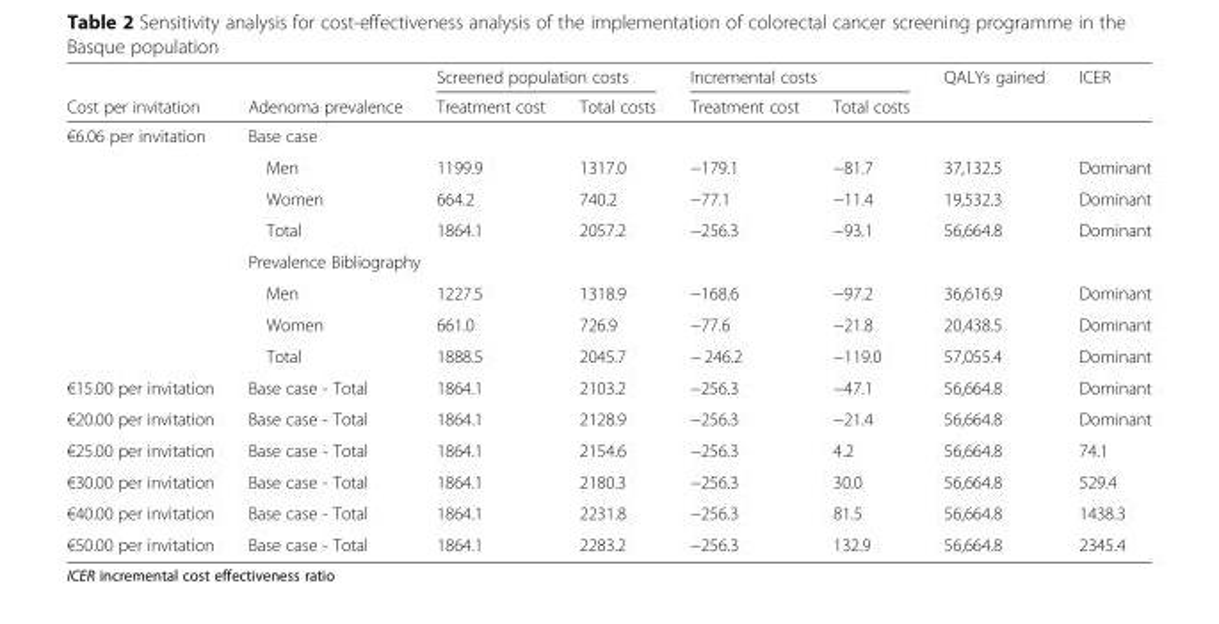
<table><thead><tr><td rowspan="2">Cost per invitation</td><td rowspan="2">Adenoma prevalence</td><td colspan="2">Screened population costs</td><td colspan="2">Incremental costs</td><td rowspan="2">QALYs gained</td><td rowspan="2">ICER</td></tr><tr><td>Treatment cost</td><td>Total costs</td><td>Treatment cost</td><td>Total costs</td></tr></thead><tbody><tr><td rowspan="8">€6.06 per invitation</td><td colspan="7">Base case</td></tr><tr><td>Men</td><td>1199.9</td><td>1317.0</td><td>−179.1</td><td>−81.7</td><td>37,132.5</td><td>Dominant</td></tr><tr><td>Women</td><td>664.2</td><td>740.2</td><td>−77.1</td><td>−11.4</td><td>19,532.3</td><td>Dominant</td></tr><tr><td>Total</td><td>1864.1</td><td>2057.2</td><td>−256.3</td><td>−93.1</td><td>56,664.8</td><td>Dominant</td></tr><tr><td colspan="7">Prevalence Bibliography</td></tr><tr><td>Men</td><td>1227.5</td><td>1318.9</td><td>−168.6</td><td>−97.2</td><td>36,616.9</td><td>Dominant</td></tr><tr><td>Women</td><td>661.0</td><td>726.9</td><td>−77.6</td><td>−21.8</td><td>20,438.5</td><td>Dominant</td></tr><tr><td>Total</td><td>1888.5</td><td>2045.7</td><td>− 246.2</td><td>−119.0</td><td>57,055.4</td><td>Dominant</td></tr><tr><td>€15.00 per invitation</td><td>Base case - Total</td><td>1864.1</td><td>2103.2</td><td>−256.3</td><td>−47.1</td><td>56,664.8</td><td>Dominant</td></tr><tr><td>€20.00 per invitation</td><td>Base case - Total</td><td>1864.1</td><td>2128.9</td><td>−256.3</td><td>−21.4</td><td>56,664.8</td><td>Dominant</td></tr><tr><td>€25.00 per invitation</td><td>Base case - Total</td><td>1864.1</td><td>2154.6</td><td>−256.3</td><td>4.2</td><td>56,664.8</td><td>74.1</td></tr><tr><td>€30.00 per invitation</td><td>Base case - Total</td><td>1864.1</td><td>2180.3</td><td>−256.3</td><td>30.0</td><td>56,664.8</td><td>529.4</td></tr><tr><td>€40.00 per invitation</td><td>Base case - Total</td><td>1864.1</td><td>2231.8</td><td>−256.3</td><td>81.5</td><td>56,664.8</td><td>1438.3</td></tr><tr><td>€50.00 per invitation</td><td>Base case - Total</td><td>1864.1</td><td>2283.2</td><td>−256.3</td><td>132.9</td><td>56,664.8</td><td>2345.4</td></tr></tbody></table>